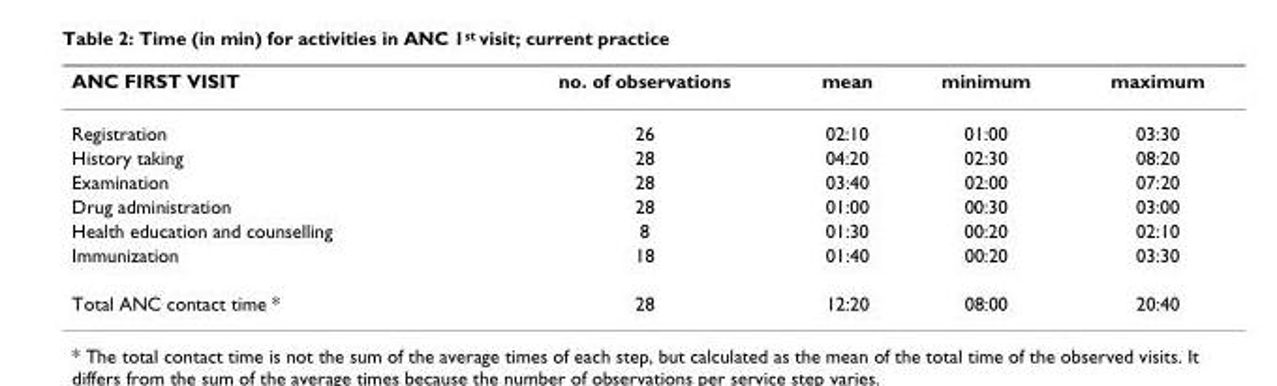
<table><thead><tr><td>ANC FIRST VISIT</td><td>no. of observations</td><td>mean</td><td>minimum</td><td>maximum</td></tr></thead><tbody><tr><td>Registration</td><td>26</td><td>02:10</td><td>01:00</td><td>03:30</td></tr><tr><td>History taking</td><td>28</td><td>04:20</td><td>02:30</td><td>08:20</td></tr><tr><td>Examination</td><td>28</td><td>03:40</td><td>02:00</td><td>07:20</td></tr><tr><td>Drug administration</td><td>28</td><td>01:00</td><td>00:30</td><td>03:00</td></tr><tr><td>Health education and counselling</td><td>8</td><td>01:30</td><td>00:20</td><td>02:10</td></tr><tr><td>Immunization</td><td>18</td><td>01:40</td><td>00:20</td><td>03:30</td></tr><tr><td>Total ANC contact time *</td><td>28</td><td>12:20</td><td>08:00</td><td>20:40</td></tr></tbody></table>